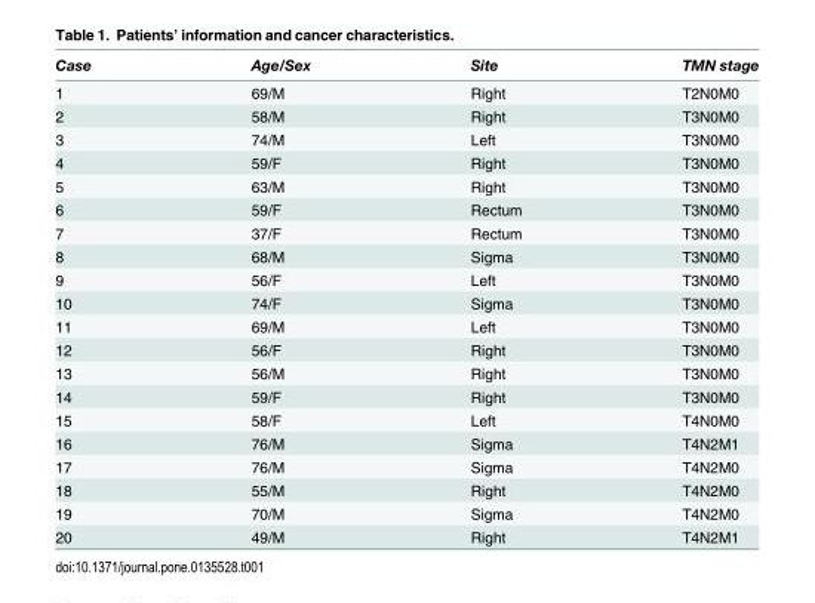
<table><thead><tr><td>Case</td><td>Age/Sex</td><td>Site</td><td>TMN stage</td></tr></thead><tbody><tr><td>1</td><td>69/M</td><td>Right</td><td>T2N0M0</td></tr><tr><td>2</td><td>58/M</td><td>Right</td><td>T3N0M0</td></tr><tr><td>3</td><td>74/M</td><td>Left</td><td>T3N0M0</td></tr><tr><td>4</td><td>59/F</td><td>Right</td><td>T3N0M0</td></tr><tr><td>5</td><td>63/M</td><td>Right</td><td>T3N0M0</td></tr><tr><td>6</td><td>59/F</td><td>Rectum</td><td>T3N0M0</td></tr><tr><td>7</td><td>37/F</td><td>Rectum</td><td>T3N0M0</td></tr><tr><td>8</td><td>68/M</td><td>Sigma</td><td>T3N0M0</td></tr><tr><td>9</td><td>56/F</td><td>Left</td><td>T3N0M0</td></tr><tr><td>10</td><td>74/F</td><td>Sigma</td><td>T3N0M0</td></tr><tr><td>11</td><td>69/M</td><td>Left</td><td>T3N0M0</td></tr><tr><td>12</td><td>56/F</td><td>Right</td><td>T3N0M0</td></tr><tr><td>13</td><td>56/M</td><td>Right</td><td>T3N0M0</td></tr><tr><td>14</td><td>59/F</td><td>Right</td><td>T3N0M0</td></tr><tr><td>15</td><td>58/F</td><td>Left</td><td>T4N0M0</td></tr><tr><td>16</td><td>76/M</td><td>Sigma</td><td>T4N2M1</td></tr><tr><td>17</td><td>76/M</td><td>Sigma</td><td>T4N2M0</td></tr><tr><td>18</td><td>55/M</td><td>Right</td><td>T4N2M0</td></tr><tr><td>19</td><td>70/M</td><td>Sigma</td><td>T4N2M0</td></tr><tr><td>20</td><td>49/M</td><td>Right</td><td>T4N2M1</td></tr></tbody></table>